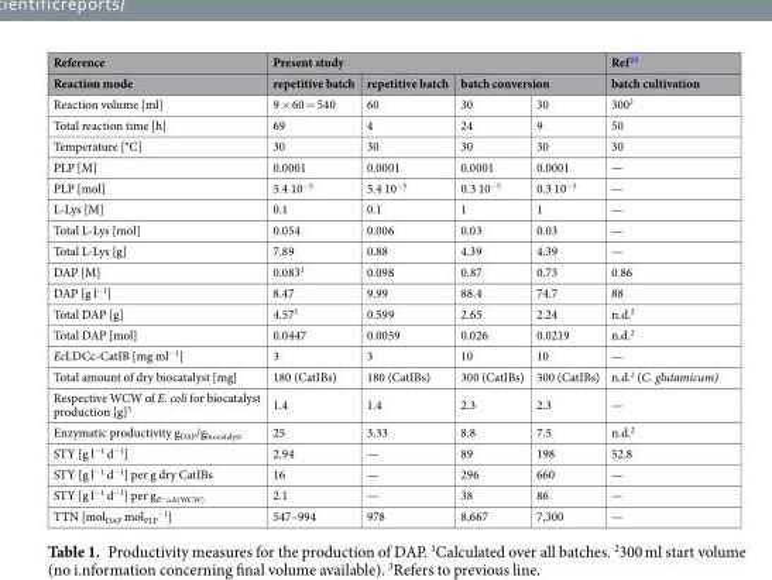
<table><thead><tr><td rowspan="3">Reference Reaction mode Reaction volume [ml]</td><td colspan="4">Present study</td><td rowspan="3">Ref <sup>23</sup> batch cultivation 300<sup>2</sup></td></tr><tr><td rowspan="2">repetitive batch 9 × 60 = 540</td><td rowspan="2">repetitive batch 60</td><td colspan="2">batch conversion</td></tr><tr><td>30</td><td>30</td></tr></thead><tbody><tr><td>Total reaction time [h]</td><td>69</td><td>4</td><td>24</td><td>9</td><td>50</td></tr><tr><td>Temperature [°C]</td><td>30</td><td>30</td><td>30</td><td>30</td><td>30</td></tr><tr><td>PLP [M]</td><td>0.0001</td><td>0.0001</td><td>0.0001</td><td>0.0001</td><td>—</td></tr><tr><td>PLP [mol]</td><td>5.4 10<sup>−5</sup></td><td>5.4 10<sup>−5</sup></td><td>0.3 10<sup>−5</sup></td><td>0.3 10<sup>−5</sup></td><td>—</td></tr><tr><td>L-Lys [M]</td><td>0.1</td><td>0.1</td><td>1</td><td>1</td><td>—</td></tr><tr><td>Total L-Lys [mol]</td><td>0.054</td><td>0.006</td><td>0.03</td><td>0.03</td><td>—</td></tr><tr><td>Total L-Lys [g]</td><td>7.89</td><td>0.88</td><td>4.39</td><td>4.39</td><td>—</td></tr><tr><td>DAP [M]</td><td>0.083<sup>1</sup></td><td>0.098</td><td>0.87</td><td>0.73</td><td>0.86</td></tr><tr><td>DAP [g l<sup>−1</sup>]</td><td>8.47</td><td>9.99</td><td>88.4</td><td>74.7</td><td>88</td></tr><tr><td>Total DAP [g]</td><td>4.57<sup>1</sup></td><td>0.599</td><td>2.65</td><td>2.24</td><td>n.d.<sup>2</sup></td></tr><tr><td>Total DAP [mol]</td><td>0.0447</td><td>0.0059</td><td>0.026</td><td>0.0219</td><td>n.d.<sup>2</sup></td></tr><tr><td>EcLDCc-CatIB [mg ml<sup>−1</sup>]</td><td>3</td><td>3</td><td>10</td><td>10</td><td>—</td></tr><tr><td>Total amount of dry biocatalyst [mg]</td><td>180 (CatIBs)</td><td>180 (CatIBs)</td><td>300 (CatIBs)</td><td>300 (CatIBs)</td><td>n.d.<sup>2</sup> (C. glutamicum)</td></tr><tr><td>Respective WCW of E. coli for biocatalyst production [g]<sup>3</sup></td><td>1.4</td><td>1.4</td><td>2.3</td><td>2.3</td><td>—</td></tr><tr><td>Enzymatic productivity g<sub>DAP</sub>/g<sub>biocatalyst</sub></td><td>25</td><td>3.33</td><td>8.8</td><td>7.5</td><td>n.d.<sup>2</sup></td></tr><tr><td>STY [g l<sup>−1</sup> d<sup>−1</sup>]</td><td>2.94</td><td>—</td><td>89</td><td>198</td><td>52.8</td></tr><tr><td>STY [g l<sup>−1</sup> d<sup>−1</sup>] per g dry CatIBs</td><td>16</td><td>—</td><td>296</td><td>660</td><td>—</td></tr><tr><td>STY [g l<sup>−1</sup> d<sup>−1</sup>] per g<sub>E</sub>. <sub>coli(WCW)</sub></td><td>2.1</td><td>—</td><td>38</td><td>86</td><td>—</td></tr><tr><td>TTN [mol<sub>DAP</sub> mol<sub>PLP</sub> <sup>−1</sup>]</td><td>547–994</td><td>978</td><td>8,667</td><td>7,300</td><td>—</td></tr></tbody></table>